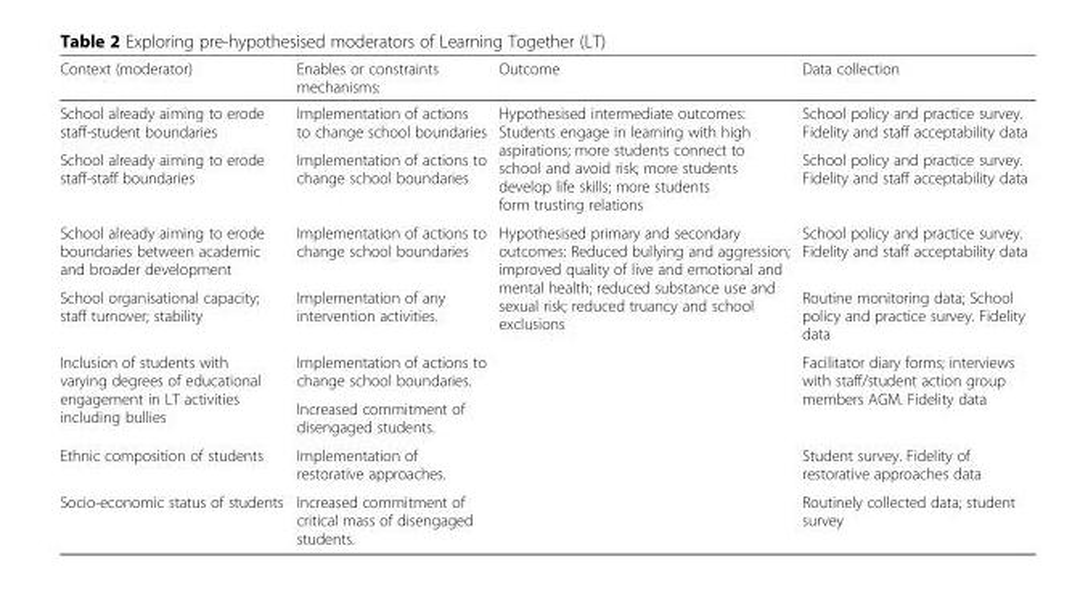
<table><thead><tr><td>Context (moderator)</td><td>Enables or constraints mechanisms:</td><td>Outcome</td><td>Data collection</td></tr></thead><tbody><tr><td>School already aiming to erode staff-student boundaries</td><td>Implementation of actions to change school boundaries</td><td rowspan="2">Hypothesised intermediate outcomes: Students engage in learning with high aspirations; more students connect to school and avoid risk; more students develop life skills; more students form trusting relations</td><td>School policy and practice survey. Fidelity and staff acceptability data</td></tr><tr><td>School already aiming to erode staff-staff boundaries</td><td>Implementation of actions to change school boundaries</td><td>School policy and practice survey. Fidelity and staff acceptability data</td></tr><tr><td>School already aiming to erode boundaries between academic and broader development</td><td>Implementation of actions to change school boundaries</td><td rowspan="6">Hypothesised primary and secondary outcomes: Reduced bullying and aggression; improved quality of live and emotional and mental health; reduced substance use and sexual risk; reduced truancy and school exclusions</td><td>School policy and practice survey. Fidelity and staff acceptability data</td></tr><tr><td>School organisational capacity; staff turnover; stability</td><td>Implementation of any intervention activities.</td><td>Routine monitoring data; School policy and practice survey. Fidelity data</td></tr><tr><td rowspan="2">Inclusion of students with varying degrees of educational engagement in LT activities including bullies</td><td>Implementation of actions to change school boundaries.</td><td rowspan="2">Facilitator diary forms; interviews with staff/student action group members AGM. Fidelity data</td></tr><tr><td>Increased commitment of disengaged students.</td></tr><tr><td>Ethnic composition of students</td><td>Implementation of restorative approaches.</td><td>Student survey. Fidelity of restorative approaches data</td></tr><tr><td>Socio-economic status of students</td><td>Increased commitment of critical mass of disengaged students.</td><td>Routinely collected data; student survey</td></tr></tbody></table>